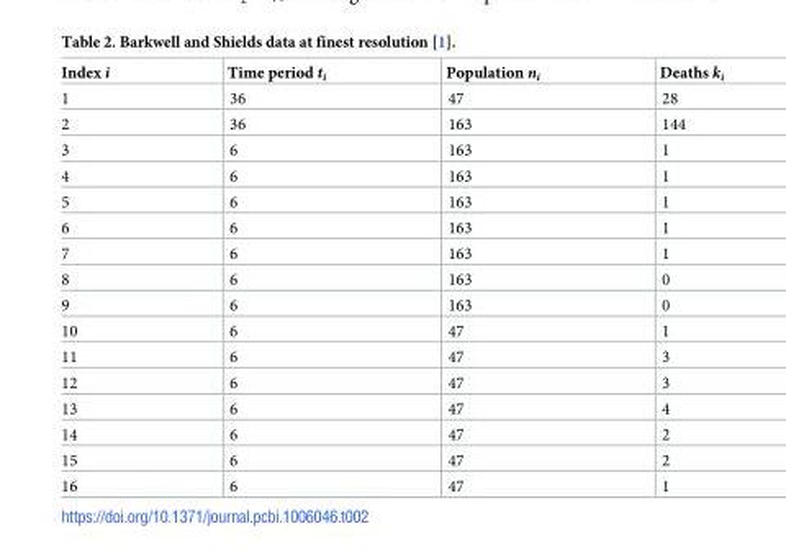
<table><thead><tr><td>Index i</td><td>Time period t<sub>i</sub></td><td>Population n<sub>i</sub></td><td>Deaths k<sub>i</sub></td></tr></thead><tbody><tr><td>1</td><td>36</td><td>47</td><td>28</td></tr><tr><td>2</td><td>36</td><td>163</td><td>144</td></tr><tr><td>3</td><td>6</td><td>163</td><td>1</td></tr><tr><td>4</td><td>6</td><td>163</td><td>1</td></tr><tr><td>5</td><td>6</td><td>163</td><td>1</td></tr><tr><td>6</td><td>6</td><td>163</td><td>1</td></tr><tr><td>7</td><td>6</td><td>163</td><td>1</td></tr><tr><td>8</td><td>6</td><td>163</td><td>0</td></tr><tr><td>9</td><td>6</td><td>163</td><td>0</td></tr><tr><td>10</td><td>6</td><td>47</td><td>1</td></tr><tr><td>11</td><td>6</td><td>47</td><td>3</td></tr><tr><td>12</td><td>6</td><td>47</td><td>3</td></tr><tr><td>13</td><td>6</td><td>47</td><td>4</td></tr><tr><td>14</td><td>6</td><td>47</td><td>2</td></tr><tr><td>15</td><td>6</td><td>47</td><td>2</td></tr><tr><td>16</td><td>6</td><td>47</td><td>1</td></tr></tbody></table>